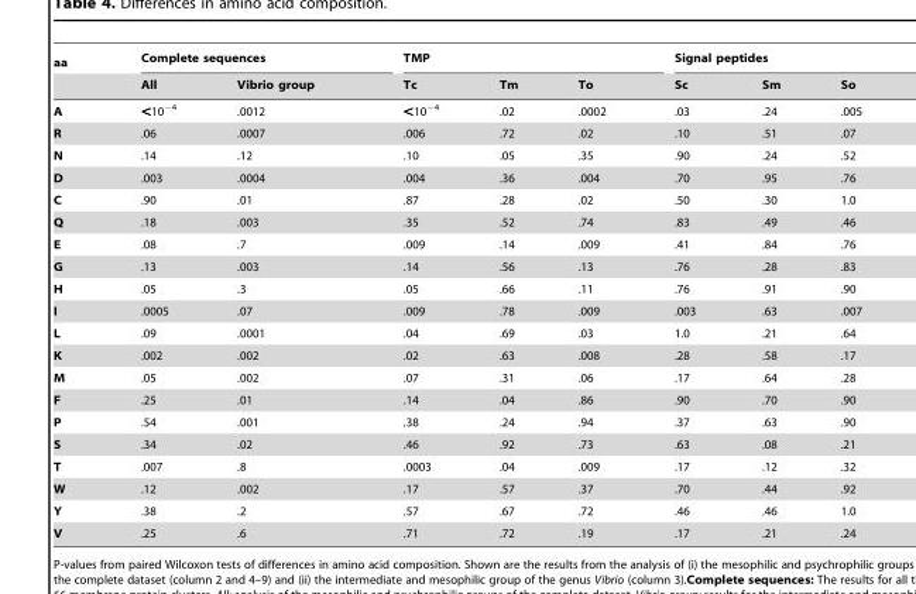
<table><thead><tr><td rowspan="2">aa</td><td colspan="2">Complete sequences</td><td colspan="3">TMP</td><td colspan="3">Signal peptides</td></tr><tr><td>All</td><td>Vibrio group</td><td>Tc</td><td>Tm</td><td>To</td><td>Sc</td><td>Sm</td><td>So</td></tr></thead><tbody><tr><td>A</td><td>&lt;10<sup>−4</sup></td><td>.0012</td><td>&lt;10<sup>−4</sup></td><td>.02</td><td>.0002</td><td>.03</td><td>.24</td><td>.005</td></tr><tr><td>R</td><td>.06</td><td>.0007</td><td>.006</td><td>.72</td><td>.02</td><td>.10</td><td>.51</td><td>.07</td></tr><tr><td>N</td><td>.14</td><td>.12</td><td>.10</td><td>.05</td><td>.35</td><td>.90</td><td>.24</td><td>.52</td></tr><tr><td>D</td><td>.003</td><td>.0004</td><td>.004</td><td>.36</td><td>.004</td><td>.70</td><td>.95</td><td>.76</td></tr><tr><td>C</td><td>.90</td><td>.01</td><td>.87</td><td>.28</td><td>.02</td><td>.50</td><td>.30</td><td>1.0</td></tr><tr><td>Q</td><td>.18</td><td>.003</td><td>.35</td><td>.52</td><td>.74</td><td>.83</td><td>.49</td><td>.46</td></tr><tr><td>E</td><td>.08</td><td>.7</td><td>.009</td><td>.14</td><td>.009</td><td>.41</td><td>.84</td><td>.76</td></tr><tr><td>G</td><td>.13</td><td>.003</td><td>.14</td><td>.56</td><td>.13</td><td>.76</td><td>.28</td><td>.83</td></tr><tr><td>H</td><td>.05</td><td>.3</td><td>.05</td><td>.66</td><td>.11</td><td>.76</td><td>.91</td><td>.90</td></tr><tr><td>I</td><td>.0005</td><td>.07</td><td>.009</td><td>.78</td><td>.009</td><td>.003</td><td>.63</td><td>.007</td></tr><tr><td>L</td><td>.09</td><td>.0001</td><td>.04</td><td>.69</td><td>.03</td><td>1.0</td><td>.21</td><td>.64</td></tr><tr><td>K</td><td>.002</td><td>.002</td><td>.02</td><td>.63</td><td>.008</td><td>.28</td><td>.58</td><td>.17</td></tr><tr><td>M</td><td>.05</td><td>.002</td><td>.07</td><td>.31</td><td>.06</td><td>.17</td><td>.64</td><td>.28</td></tr><tr><td>F</td><td>.25</td><td>.01</td><td>.14</td><td>.04</td><td>.86</td><td>.90</td><td>.70</td><td>.90</td></tr><tr><td>P</td><td>.54</td><td>.001</td><td>.38</td><td>.24</td><td>.94</td><td>.37</td><td>.63</td><td>.90</td></tr><tr><td>S</td><td>.34</td><td>.02</td><td>.46</td><td>.92</td><td>.73</td><td>.63</td><td>.08</td><td>.21</td></tr><tr><td>T</td><td>.007</td><td>.8</td><td>.0003</td><td>.04</td><td>.009</td><td>.17</td><td>.12</td><td>.32</td></tr><tr><td>W</td><td>.12</td><td>.002</td><td>.17</td><td>.57</td><td>.37</td><td>.70</td><td>.44</td><td>.92</td></tr><tr><td>Y</td><td>.38</td><td>.2</td><td>.57</td><td>.67</td><td>.72</td><td>.46</td><td>.46</td><td>1.0</td></tr><tr><td>V</td><td>.25</td><td>.6</td><td>.71</td><td>.72</td><td>.19</td><td>.17</td><td>.21</td><td>.24</td></tr></tbody></table>